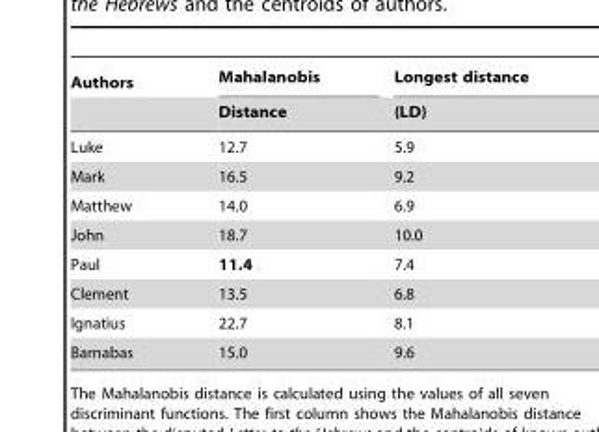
<table><thead><tr><td rowspan="2">Authors</td><td rowspan="2">Mahalanobis Distance</td><td rowspan="2">Longest distance (LD)</td></tr><tr></tr></thead><tbody><tr><td>Luke</td><td>12.7</td><td>5.9</td></tr><tr><td>Mark</td><td>16.5</td><td>9.2</td></tr><tr><td>Matthew</td><td>14.0</td><td>6.9</td></tr><tr><td>John</td><td>18.7</td><td>10.0</td></tr><tr><td>Paul</td><td>11.4</td><td>7.4</td></tr><tr><td>Clement</td><td>13.5</td><td>6.8</td></tr><tr><td>Ignatius</td><td>22.7</td><td>8.1</td></tr><tr><td>Barnabas</td><td>15.0</td><td>9.6</td></tr></tbody></table>